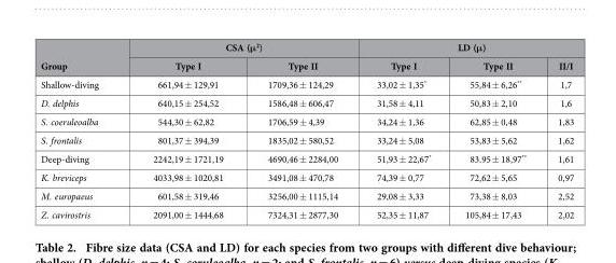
<table><thead><tr><td rowspan="2">Group</td><td colspan="2">CSA (μ<sup>2</sup>)</td><td colspan="3">LD (μ)</td></tr><tr><td>Type I</td><td>Type II</td><td>Type I</td><td>Type II</td><td>II/I</td></tr></thead><tbody><tr><td>Shallow-diving</td><td>661,94 ± 129,91</td><td>1709,36 ± 124,29</td><td>33,02 ± 1,35*</td><td>55,84 ± 6,26**</td><td>1,7</td></tr><tr><td>D. delphis</td><td>640,15 ± 254,52</td><td>1586,48 ± 606,47</td><td>31,58 ± 4,11</td><td>50,83 ± 2,10</td><td>1,6</td></tr><tr><td>S. coeruleoalba</td><td>544,30 ± 62,82</td><td>1706,59 ± 4,39</td><td>34,24 ± 1,36</td><td>62,85 ± 0,48</td><td>1,83</td></tr><tr><td>S. frontalis</td><td>801,37 ± 394,39</td><td>1835,02 ± 580,52</td><td>33,24 ± 5,08</td><td>53,83 ± 5,62</td><td>1,62</td></tr><tr><td>Deep-diving</td><td>2242,19 ± 1721,19</td><td>4690,46 ± 2284,00</td><td>51,93 ± 22,67*</td><td>83.95 ± 18,97**</td><td>1,61</td></tr><tr><td>K. breviceps</td><td>4033,98 ± 1020,81</td><td>3491,08 ± 470,78</td><td>74,39 ± 0,77</td><td>72,62 ± 5,65</td><td>0,97</td></tr><tr><td>M. europaeus</td><td>601,58 ± 319,46</td><td>3256,00 ± 1115,14</td><td>29,08 ± 3,33</td><td>73,38 ± 8,03</td><td>2,52</td></tr><tr><td>Z. cavirostris</td><td>2091,00 ± 1444,68</td><td>7324,31 ± 2877,30</td><td>52,35 ± 11,87</td><td>105,84 ± 17,43</td><td>2,02</td></tr></tbody></table>